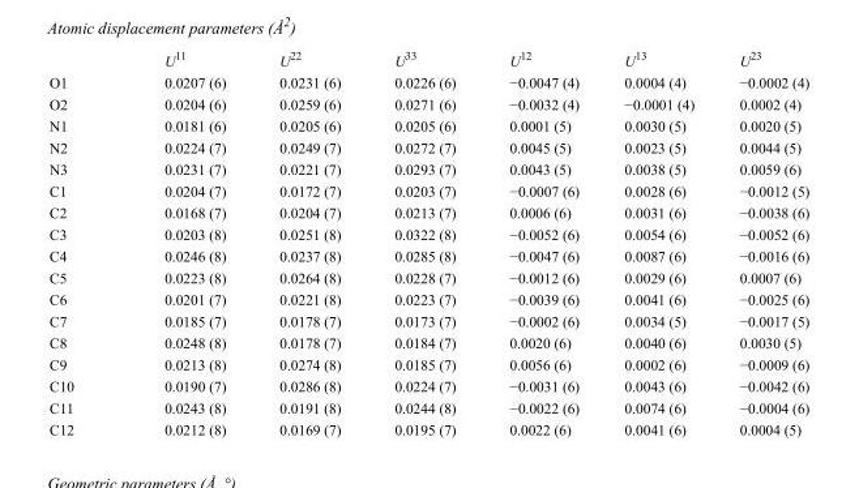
<table><thead><tr><td></td><td>U<sup>11</sup></td><td>U<sup>22</sup></td><td>U<sup>33</sup></td><td>U<sup>12</sup></td><td>U<sup>13</sup></td><td>U<sup>23</sup></td></tr></thead><tbody><tr><td>O1</td><td>0.0207 (6)</td><td>0.0231 (6)</td><td>0.0226 (6)</td><td>−0.0047 (4)</td><td>0.0004 (4)</td><td>−0.0002 (4)</td></tr><tr><td>O2</td><td>0.0204 (6)</td><td>0.0259 (6)</td><td>0.0271 (6)</td><td>−0.0032 (4)</td><td>−0.0001 (4)</td><td>0.0002 (4)</td></tr><tr><td>N1</td><td>0.0181 (6)</td><td>0.0205 (6)</td><td>0.0205 (6)</td><td>0.0001 (5)</td><td>0.0030 (5)</td><td>0.0020 (5)</td></tr><tr><td>N2</td><td>0.0224 (7)</td><td>0.0249 (7)</td><td>0.0272 (7)</td><td>0.0045 (5)</td><td>0.0023 (5)</td><td>0.0044 (5)</td></tr><tr><td>N3</td><td>0.0231 (7)</td><td>0.0221 (7)</td><td>0.0293 (7)</td><td>0.0043 (5)</td><td>0.0038 (5)</td><td>0.0059 (6)</td></tr><tr><td>C1</td><td>0.0204 (7)</td><td>0.0172 (7)</td><td>0.0203 (7)</td><td>−0.0007 (6)</td><td>0.0028 (6)</td><td>−0.0012 (5)</td></tr><tr><td>C2</td><td>0.0168 (7)</td><td>0.0204 (7)</td><td>0.0213 (7)</td><td>0.0006 (6)</td><td>0.0031 (6)</td><td>−0.0038 (6)</td></tr><tr><td>C3</td><td>0.0203 (8)</td><td>0.0251 (8)</td><td>0.0322 (8)</td><td>−0.0052 (6)</td><td>0.0054 (6)</td><td>−0.0052 (6)</td></tr><tr><td>C4</td><td>0.0246 (8)</td><td>0.0237 (8)</td><td>0.0285 (8)</td><td>−0.0047 (6)</td><td>0.0087 (6)</td><td>−0.0016 (6)</td></tr><tr><td>C5</td><td>0.0223 (8)</td><td>0.0264 (8)</td><td>0.0228 (7)</td><td>−0.0012 (6)</td><td>0.0029 (6)</td><td>0.0007 (6)</td></tr><tr><td>C6</td><td>0.0201 (7)</td><td>0.0221 (8)</td><td>0.0223 (7)</td><td>−0.0039 (6)</td><td>0.0041 (6)</td><td>−0.0025 (6)</td></tr><tr><td>C7</td><td>0.0185 (7)</td><td>0.0178 (7)</td><td>0.0173 (7)</td><td>−0.0002 (6)</td><td>0.0034 (5)</td><td>−0.0017 (5)</td></tr><tr><td>C8</td><td>0.0248 (8)</td><td>0.0178 (7)</td><td>0.0184 (7)</td><td>0.0020 (6)</td><td>0.0040 (6)</td><td>0.0030 (5)</td></tr><tr><td>C9</td><td>0.0213 (8)</td><td>0.0274 (8)</td><td>0.0185 (7)</td><td>0.0056 (6)</td><td>0.0002 (6)</td><td>−0.0009 (6)</td></tr><tr><td>C10</td><td>0.0190 (7)</td><td>0.0286 (8)</td><td>0.0224 (7)</td><td>−0.0031 (6)</td><td>0.0043 (6)</td><td>−0.0042 (6)</td></tr><tr><td>C11</td><td>0.0243 (8)</td><td>0.0191 (8)</td><td>0.0244 (8)</td><td>−0.0022 (6)</td><td>0.0074 (6)</td><td>−0.0004 (6)</td></tr><tr><td>C12</td><td>0.0212 (8)</td><td>0.0169 (7)</td><td>0.0195 (7)</td><td>0.0022 (6)</td><td>0.0041 (6)</td><td>0.0004 (5)</td></tr></tbody></table>